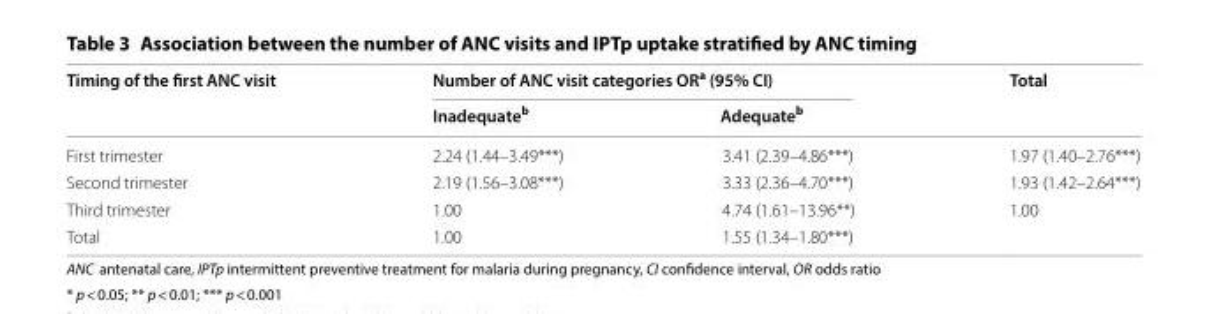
<table><thead><tr><td rowspan="2">Timing of the first ANC visit</td><td colspan="2">Number of ANC visit categories OR<sup>a</sup> (95% CI)</td><td rowspan="2">Total</td></tr><tr><td>Inadequate<sup>b</sup></td><td>Adequate<sup>b</sup></td></tr></thead><tbody><tr><td>First trimester</td><td>2.24 (1.44–3.49***)</td><td>3.41 (2.39–4.86***)</td><td>1.97 (1.40–2.76***)</td></tr><tr><td>Second trimester</td><td>2.19 (1.56–3.08***)</td><td>3.33 (2.36–4.70***)</td><td>1.93 (1.42–2.64***)</td></tr><tr><td>Third trimester</td><td>1.00</td><td>4.74 (1.61–13.96**)</td><td>1.00</td></tr><tr><td>Total</td><td>1.00</td><td>1.55 (1.34–1.80***)</td><td></td></tr></tbody></table>